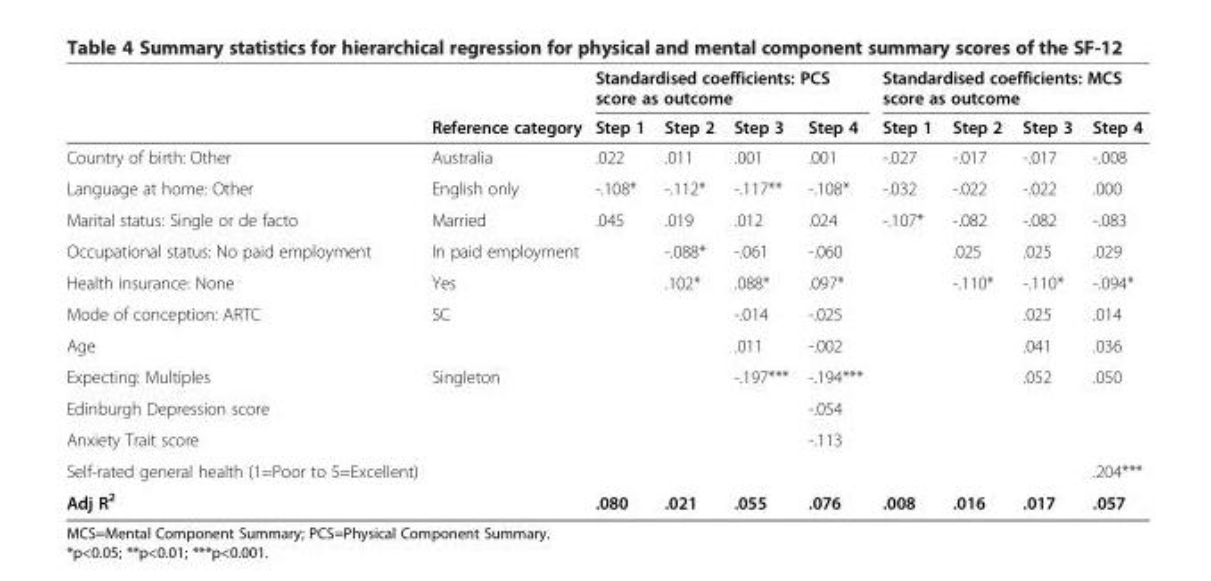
<table><thead><tr><td rowspan="2"></td><td rowspan="2">Reference category</td><td colspan="4">Standardised coefficients: PCS score as outcome</td><td colspan="4">Standardised coefficients: MCS score as outcome</td></tr><tr><td>Step 1</td><td>Step 2</td><td>Step 3</td><td>Step 4</td><td>Step 1</td><td>Step 2</td><td>Step 3</td><td>Step 4</td></tr></thead><tbody><tr><td>Country of birth: Other</td><td>Australia</td><td>.022</td><td>.011</td><td>.001</td><td>.001</td><td>-.027</td><td>-.017</td><td>-.017</td><td>-.008</td></tr><tr><td>Language at home: Other</td><td>English only</td><td>-.108*</td><td>-.112*</td><td>-.117**</td><td>-.108*</td><td>-.032</td><td>-.022</td><td>-.022</td><td>.000</td></tr><tr><td>Marital status: Single or de facto</td><td>Married</td><td>.045</td><td>.019</td><td>.012</td><td>.024</td><td>-.107*</td><td>-.082</td><td>-.082</td><td>-.083</td></tr><tr><td>Occupational status: No paid employment</td><td>In paid employment</td><td></td><td>-.088*</td><td>-.061</td><td>-.060</td><td></td><td>.025</td><td>.025</td><td>.029</td></tr><tr><td>Health insurance: None</td><td>Yes</td><td></td><td>.102*</td><td>.088*</td><td>.097*</td><td></td><td>-.110*</td><td>-.110*</td><td>-.094*</td></tr><tr><td>Mode of conception: ARTC</td><td>SC</td><td></td><td></td><td>-.014</td><td>-.025</td><td></td><td></td><td>.025</td><td>.014</td></tr><tr><td>Age</td><td></td><td></td><td></td><td>.011</td><td>-.002</td><td></td><td></td><td>.041</td><td>.036</td></tr><tr><td>Expecting: Multiples</td><td>Singleton</td><td></td><td></td><td>-.197***</td><td>-.194***</td><td></td><td></td><td>.052</td><td>.050</td></tr><tr><td>Edinburgh Depression score</td><td></td><td></td><td></td><td></td><td>-.054</td><td></td><td></td><td></td><td></td></tr><tr><td>Anxiety Trait score</td><td></td><td></td><td></td><td></td><td>-.113</td><td></td><td></td><td></td><td></td></tr><tr><td>Self-rated general health (1=Poor to 5=Excellent)</td><td></td><td></td><td></td><td></td><td></td><td></td><td></td><td></td><td>.204***</td></tr><tr><td>Adj R<sup>2</sup></td><td></td><td>.080</td><td>.021</td><td>.055</td><td>.076</td><td>.008</td><td>.016</td><td>.017</td><td>.057</td></tr></tbody></table>